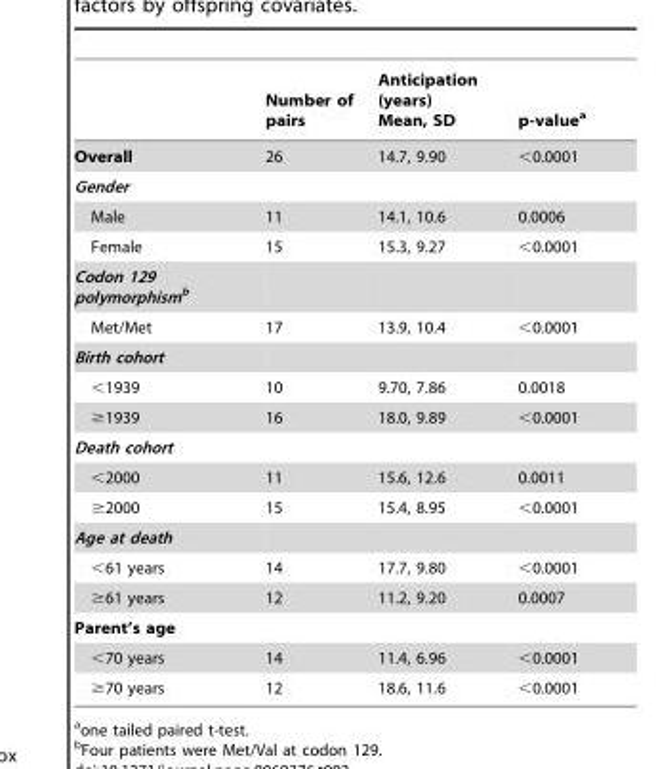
<table><thead><tr><td></td><td>Number of pairs</td><td>Anticipation (years) Mean, SD</td><td>p-value<sup>a</sup></td></tr></thead><tbody><tr><td>Overall</td><td>26</td><td>14.7, 9.90</td><td>&lt;0.0001</td></tr><tr><td colspan="4">Gender</td></tr><tr><td>Male</td><td>11</td><td>14.1, 10.6</td><td>0.0006</td></tr><tr><td>Female</td><td>15</td><td>15.3, 9.27</td><td>&lt;0.0001</td></tr><tr><td colspan="4">Codon 129 polymorphismb</td></tr><tr><td>Met/Met</td><td>17</td><td>13.9, 10.4</td><td>&lt;0.0001</td></tr><tr><td colspan="4">Birth cohort</td></tr><tr><td>&lt;1939</td><td>10</td><td>9.70, 7.86</td><td>0.0018</td></tr><tr><td>≥1939</td><td>16</td><td>18.0, 9.89</td><td>&lt;0.0001</td></tr><tr><td colspan="4">Death cohort</td></tr><tr><td>&lt;2000</td><td>11</td><td>15.6, 12.6</td><td>0.0011</td></tr><tr><td>≥2000</td><td>15</td><td>15.4, 8.95</td><td>&lt;0.0001</td></tr><tr><td colspan="4">Age at death</td></tr><tr><td>&lt;61 years</td><td>14</td><td>17.7, 9.80</td><td>&lt;0.0001</td></tr><tr><td>≥61 years</td><td>12</td><td>11.2, 9.20</td><td>0.0007</td></tr><tr><td colspan="4">Parent’s age</td></tr><tr><td>&lt;70 years</td><td>14</td><td>11.4, 6.96</td><td>&lt;0.0001</td></tr><tr><td>≥70 years</td><td>12</td><td>18.6, 11.6</td><td>&lt;0.0001</td></tr></tbody></table>